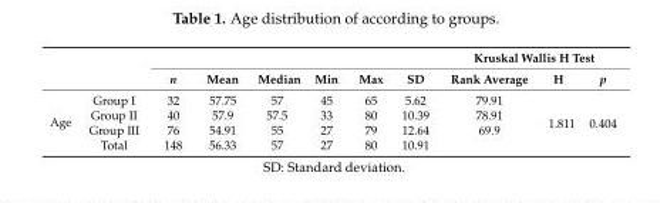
<table><thead><tr><td rowspan="2"></td><td rowspan="2"></td><td rowspan="2">n</td><td rowspan="2">Mean</td><td rowspan="2">Median</td><td rowspan="2">Min</td><td rowspan="2">Max</td><td rowspan="2">SD</td><td colspan="3">Kruskal Wallis H Test</td></tr><tr><td>Rank Average</td><td>H</td><td>p</td></tr></thead><tbody><tr><td rowspan="4">Age</td><td>Group I</td><td>32</td><td>57.75</td><td>57</td><td>45</td><td>65</td><td>5.62</td><td>79.91</td><td rowspan="4">1.811</td><td rowspan="4">0.404</td></tr><tr><td>Group II</td><td>40</td><td>57.9</td><td>57.5</td><td>33</td><td>80</td><td>10.39</td><td>78.91</td></tr><tr><td>Group III</td><td>76</td><td>54.91</td><td>55</td><td>27</td><td>79</td><td>12.64</td><td>69.9</td></tr><tr><td>Total</td><td>148</td><td>56.33</td><td>57</td><td>27</td><td>80</td><td>10.91</td><td></td></tr></tbody></table>